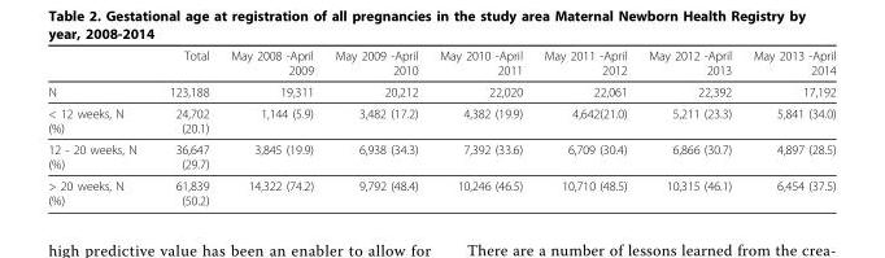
<table><thead><tr><td></td><td>Total</td><td>May 2008 -April 2009</td><td>May 2009 -April 2010</td><td>May 2010 -April 2011</td><td>May 2011 -April 2012</td><td>May 2012 -April 2013</td><td>May 2013 -April 2014</td></tr></thead><tbody><tr><td>N</td><td>123,188</td><td>19,311</td><td>20,212</td><td>22,020</td><td>22,061</td><td>22,392</td><td>17,192</td></tr><tr><td>&lt; 12 weeks, N (%)</td><td>24,702 (20.1)</td><td>1,144 (5.9)</td><td>3,482 (17.2)</td><td>4,382 (19.9)</td><td>4,642(21.0)</td><td>5,211 (23.3)</td><td>5,841 (34.0)</td></tr><tr><td>12 - 20 weeks, N (%)</td><td>36,647 (29.7)</td><td>3,845 (19.9)</td><td>6,938 (34.3)</td><td>7,392 (33.6)</td><td>6,709 (30.4)</td><td>6,866 (30.7)</td><td>4,897 (28.5)</td></tr><tr><td>&gt; 20 weeks, N (%)</td><td>61,839 (50.2)</td><td>14,322 (74.2)</td><td>9,792 (48.4)</td><td>10,246 (46.5)</td><td>10,710 (48.5)</td><td>10,315 (46.1)</td><td>6,454 (37.5)</td></tr></tbody></table>